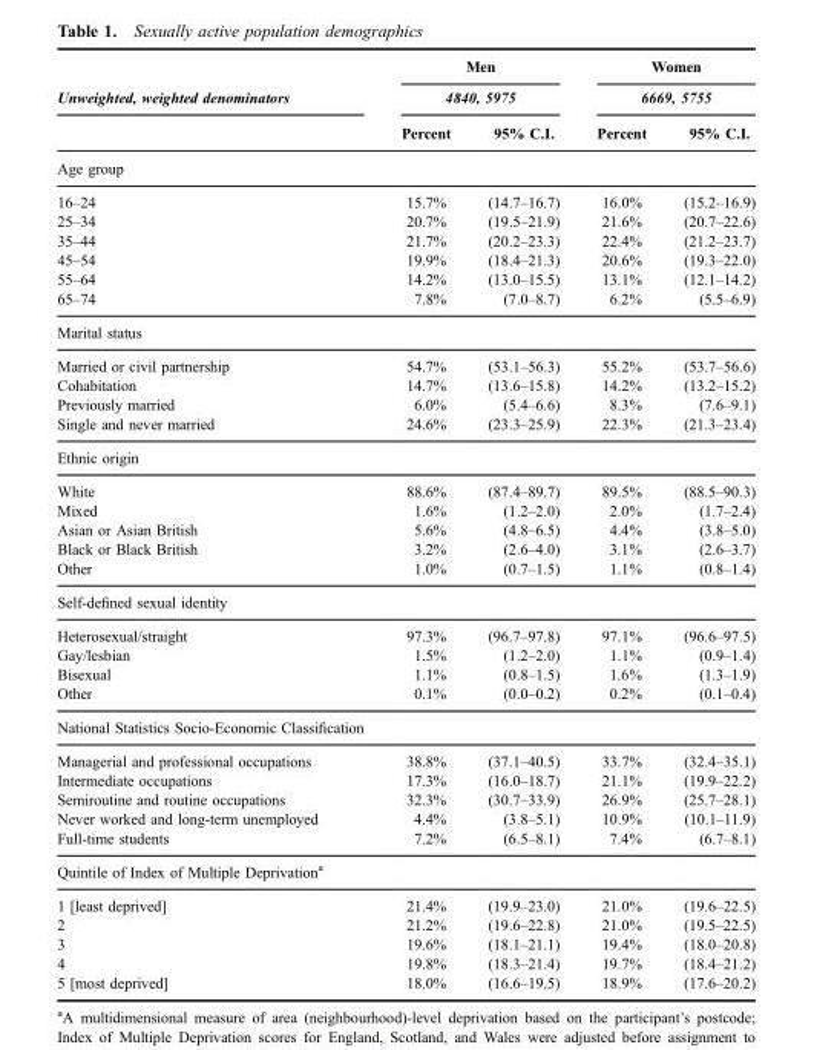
<table><thead><tr><td rowspan="3">Unweighted, weighted denominators</td><td rowspan="2" colspan="2">Men 4840, 5975</td><td rowspan="2" colspan="2">Women 6669, 5755</td></tr><tr></tr><tr><td>Percent</td><td>95% C.I.</td><td>Percent</td><td>95% C.I.</td></tr></thead><tbody><tr><td colspan="5">Age group</td></tr><tr><td>16–24</td><td>15.7%</td><td>(14.7–16.7)</td><td>16.0%</td><td>(15.2–16.9)</td></tr><tr><td>25–34</td><td>20.7%</td><td>(19.5–21.9)</td><td>21.6%</td><td>(20.7–22.6)</td></tr><tr><td>35–44</td><td>21.7%</td><td>(20.2–23.3)</td><td>22.4%</td><td>(21.2–23.7)</td></tr><tr><td>45–54</td><td>19.9%</td><td>(18.4–21.3)</td><td>20.6%</td><td>(19.3–22.0)</td></tr><tr><td>55–64</td><td>14.2%</td><td>(13.0–15.5)</td><td>13.1%</td><td>(12.1–14.2)</td></tr><tr><td>65–74</td><td>7.8%</td><td>(7.0–8.7)</td><td>6.2%</td><td>(5.5–6.9)</td></tr><tr><td colspan="5">Marital status</td></tr><tr><td>Married or civil partnership</td><td>54.7%</td><td>(53.1–56.3)</td><td>55.2%</td><td>(53.7–56.6)</td></tr><tr><td>Cohabitation</td><td>14.7%</td><td>(13.6–15.8)</td><td>14.2%</td><td>(13.2–15.2)</td></tr><tr><td>Previously married</td><td>6.0%</td><td>(5.4–6.6)</td><td>8.3%</td><td>(7.6–9.1)</td></tr><tr><td>Single and never married</td><td>24.6%</td><td>(23.3–25.9)</td><td>22.3%</td><td>(21.3–23.4)</td></tr><tr><td colspan="5">Ethnic origin</td></tr><tr><td>White</td><td>88.6%</td><td>(87.4–89.7)</td><td>89.5%</td><td>(88.5–90.3)</td></tr><tr><td>Mixed</td><td>1.6%</td><td>(1.2–2.0)</td><td>2.0%</td><td>(1.7–2.4)</td></tr><tr><td>Asian or Asian British</td><td>5.6%</td><td>(4.8–6.5)</td><td>4.4%</td><td>(3.8–5.0)</td></tr><tr><td>Black or Black British</td><td>3.2%</td><td>(2.6–4.0)</td><td>3.1%</td><td>(2.6–3.7)</td></tr><tr><td>Other</td><td>1.0%</td><td>(0.7–1.5)</td><td>1.1%</td><td>(0.8–1.4)</td></tr><tr><td colspan="5">Self-defined sexual identity</td></tr><tr><td>Heterosexual/straight</td><td>97.3%</td><td>(96.7–97.8)</td><td>97.1%</td><td>(96.6–97.5)</td></tr><tr><td>Gay/lesbian</td><td>1.5%</td><td>(1.2–2.0)</td><td>1.1%</td><td>(0.9–1.4)</td></tr><tr><td>Bisexual</td><td>1.1%</td><td>(0.8–1.5)</td><td>1.6%</td><td>(1.3–1.9)</td></tr><tr><td>Other</td><td>0.1%</td><td>(0.0–0.2)</td><td>0.2%</td><td>(0.1–0.4)</td></tr><tr><td colspan="5">National Statistics Socio-Economic Classification</td></tr><tr><td>Managerial and professional occupations</td><td>38.8%</td><td>(37.1–40.5)</td><td>33.7%</td><td>(32.4–35.1)</td></tr><tr><td>Intermediate occupations</td><td>17.3%</td><td>(16.0–18.7)</td><td>21.1%</td><td>(19.9–22.2)</td></tr><tr><td>Semiroutine and routine occupations</td><td>32.3%</td><td>(30.7–33.9)</td><td>26.9%</td><td>(25.7–28.1)</td></tr><tr><td>Never worked and long-term unemployed</td><td>4.4%</td><td>(3.8–5.1)</td><td>10.9%</td><td>(10.1–11.9)</td></tr><tr><td>Full-time students</td><td>7.2%</td><td>(6.5–8.1)</td><td>7.4%</td><td>(6.7–8.1)</td></tr><tr><td colspan="5">Quintile of Index of Multiple Deprivation<sup>a</sup></td></tr><tr><td>1 [least deprived]</td><td>21.4%</td><td>(19.9–23.0)</td><td>21.0%</td><td>(19.6–22.5)</td></tr><tr><td>2</td><td>21.2%</td><td>(19.6–22.8)</td><td>21.0%</td><td>(19.5–22.5)</td></tr><tr><td>3</td><td>19.6%</td><td>(18.1–21.1)</td><td>19.4%</td><td>(18.0–20.8)</td></tr><tr><td>4</td><td>19.8%</td><td>(18.3–21.4)</td><td>19.7%</td><td>(18.4–21.2)</td></tr><tr><td>5 [most deprived]</td><td>18.0%</td><td>(16.6–19.5)</td><td>18.9%</td><td>(17.6–20.2)</td></tr></tbody></table>